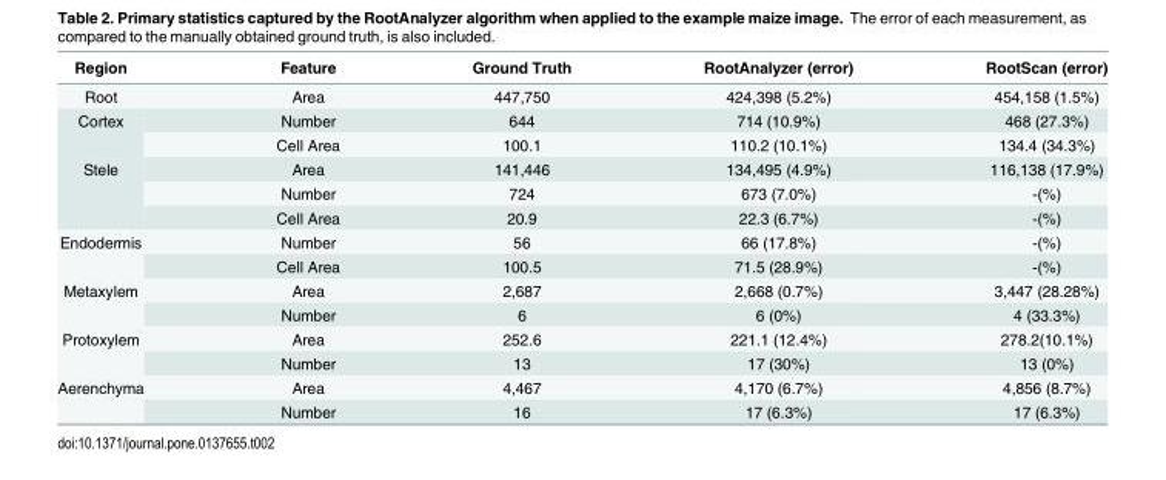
<table><thead><tr><td>Region</td><td>Feature</td><td>Ground Truth</td><td>RootAnalyzer (error)</td><td>RootScan (error)</td></tr></thead><tbody><tr><td>Root</td><td>Area</td><td>447,750</td><td>424,398 (5.2%)</td><td>454,158 (1.5%)</td></tr><tr><td rowspan="2">Cortex</td><td>Number</td><td>644</td><td>714 (10.9%)</td><td>468 (27.3%)</td></tr><tr><td>Cell Area</td><td>100.1</td><td>110.2 (10.1%)</td><td>134.4 (34.3%)</td></tr><tr><td rowspan="3">Stele</td><td>Area</td><td>141,446</td><td>134,495 (4.9%)</td><td>116,138 (17.9%)</td></tr><tr><td>Number</td><td>724</td><td>673 (7.0%)</td><td>-(%)</td></tr><tr><td>Cell Area</td><td>20.9</td><td>22.3 (6.7%)</td><td>-(%)</td></tr><tr><td rowspan="2">Endodermis</td><td>Number</td><td>56</td><td>66 (17.8%)</td><td>-(%)</td></tr><tr><td>Cell Area</td><td>100.5</td><td>71.5 (28.9%)</td><td>-(%)</td></tr><tr><td rowspan="2">Metaxylem</td><td>Area</td><td>2,687</td><td>2,668 (0.7%)</td><td>3,447 (28.28%)</td></tr><tr><td>Number</td><td>6</td><td>6 (0%)</td><td>4 (33.3%)</td></tr><tr><td rowspan="2">Protoxylem</td><td>Area</td><td>252.6</td><td>221.1 (12.4%)</td><td>278.2(10.1%)</td></tr><tr><td>Number</td><td>13</td><td>17 (30%)</td><td>13 (0%)</td></tr><tr><td rowspan="2">Aerenchyma</td><td>Area</td><td>4,467</td><td>4,170 (6.7%)</td><td>4,856 (8.7%)</td></tr><tr><td>Number</td><td>16</td><td>17 (6.3%)</td><td>17 (6.3%)</td></tr></tbody></table>